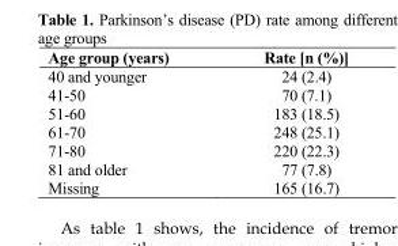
<table><thead><tr><td>Age group (years)</td><td>Rate [n (%)]</td></tr></thead><tbody><tr><td>40 and younger</td><td>24 (2.4)</td></tr><tr><td>41-50</td><td>70 (7.1)</td></tr><tr><td>51-60</td><td>183 (18.5)</td></tr><tr><td>61-70</td><td>248 (25.1)</td></tr><tr><td>71-80</td><td>220 (22.3)</td></tr><tr><td>81 and older</td><td>77 (7.8)</td></tr><tr><td>Missing</td><td>165 (16.7)</td></tr></tbody></table>